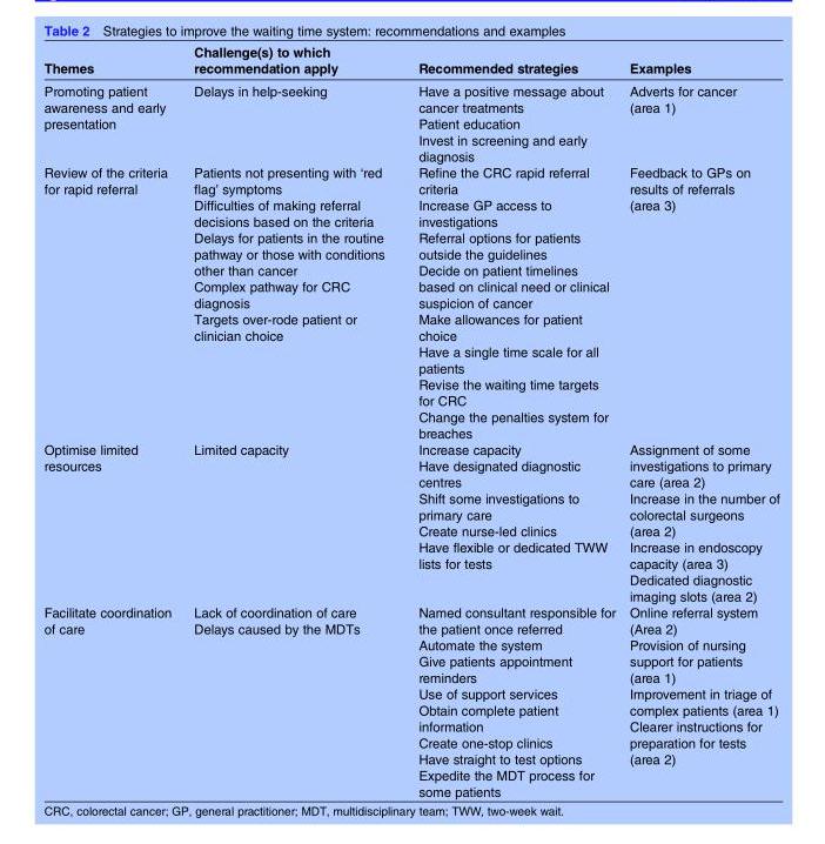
<table><thead><tr><td>Themes</td><td>Challenge(s) to which recommendation apply</td><td>Recommended strategies</td><td>Examples</td></tr></thead><tbody><tr><td>Promoting patient awareness and early presentation</td><td>Delays in help-seeking</td><td>Have a positive message about cancer treatments Patient education Invest in screening and early diagnosis</td><td>Adverts for cancer (area 1)</td></tr><tr><td>Review of the criteria for rapid referral</td><td>Patients not presenting with ‘red flag’ symptoms Difficulties of making referral decisions based on the criteria Delays for patients in the routine pathway or those with conditions other than cancer Complex pathway for CRC diagnosis Targets over-rode patient or clinician choice</td><td>Refine the CRC rapid referral criteria Increase GP access to investigations Referral options for patients outside the guidelines Decide on patient timelines based on clinical need or clinical suspicion of cancer Make allowances for patient choice Have a single time scale for all patients Revise the waiting time targets for CRC Change the penalties system for breaches</td><td>Feedback to GPs on results of referrals (area 3)</td></tr><tr><td>Optimise limited resources</td><td>Limited capacity</td><td>Increase capacity Have designated diagnostic centres Shift some investigations to primary care Create nurse-led clinics Have flexible or dedicated TWW lists for tests</td><td>Assignment of some investigations to primary care (area 2) Increase in the number of colorectal surgeons (area 2) Increase in endoscopy capacity (area 3) Dedicated diagnostic imaging slots (area 2)</td></tr><tr><td>Facilitate coordination of care</td><td>Lack of coordination of care Delays caused by the MDTs</td><td>Named consultant responsible for the patient once referred Automate the system Give patients appointment reminders Use of support services Obtain complete patient information Create one-stop clinics Have straight to test options Expedite the MDT process for some patients</td><td>Online referral system (Area 2) Provision of nursing support for patients (area 1) Improvement in triage of complex patients (area 1) Clearer instructions for preparation for tests (area 2)</td></tr></tbody></table>